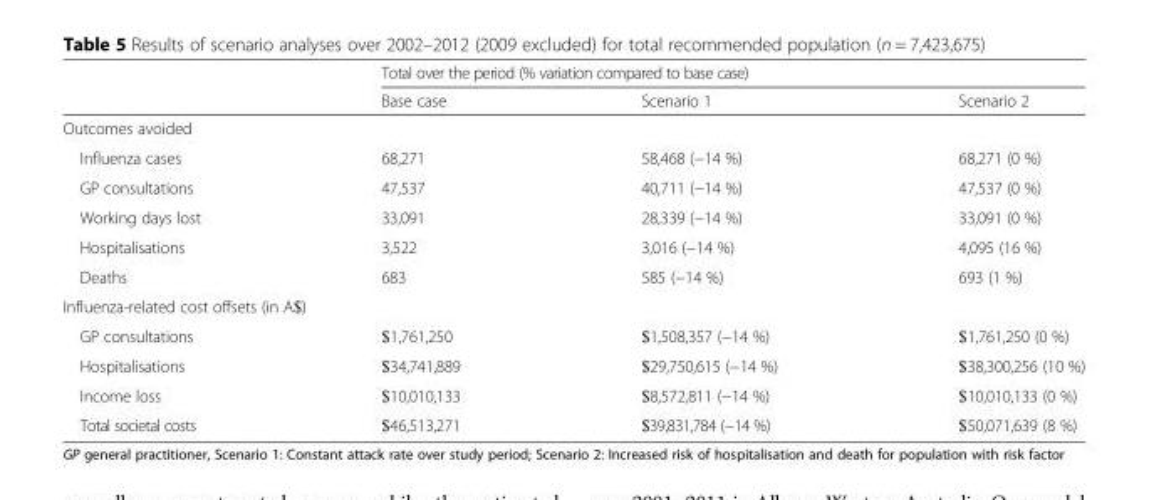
<table><thead><tr><td rowspan="2"></td><td colspan="3">Total over the period (% variation compared to base case)</td></tr><tr><td>Base case</td><td>Scenario 1</td><td>Scenario 2</td></tr></thead><tbody><tr><td colspan="4">Outcomes avoided</td></tr><tr><td>Influenza cases</td><td>68,271</td><td>58,468 (−14 %)</td><td>68,271 (0 %)</td></tr><tr><td>GP consultations</td><td>47,537</td><td>40,711 (−14 %)</td><td>47,537 (0 %)</td></tr><tr><td>Working days lost</td><td>33,091</td><td>28,339 (−14 %)</td><td>33,091 (0 %)</td></tr><tr><td>Hospitalisations</td><td>3,522</td><td>3,016 (−14 %)</td><td>4,095 (16 %)</td></tr><tr><td>Deaths</td><td>683</td><td>585 (−14 %)</td><td>693 (1 %)</td></tr><tr><td colspan="4">Influenza-related cost offsets (in A$)</td></tr><tr><td>GP consultations</td><td>$1,761,250</td><td>$1,508,357 (−14 %)</td><td>$1,761,250 (0 %)</td></tr><tr><td>Hospitalisations</td><td>$34,741,889</td><td>$29,750,615 (−14 %)</td><td>$38,300,256 (10 %)</td></tr><tr><td>Income loss</td><td>$10,010,133</td><td>$8,572,811 (−14 %)</td><td>$10,010,133 (0 %)</td></tr><tr><td>Total societal costs</td><td>$46,513,271</td><td>$39,831,784 (−14 %)</td><td>$50,071,639 (8 %)</td></tr></tbody></table>